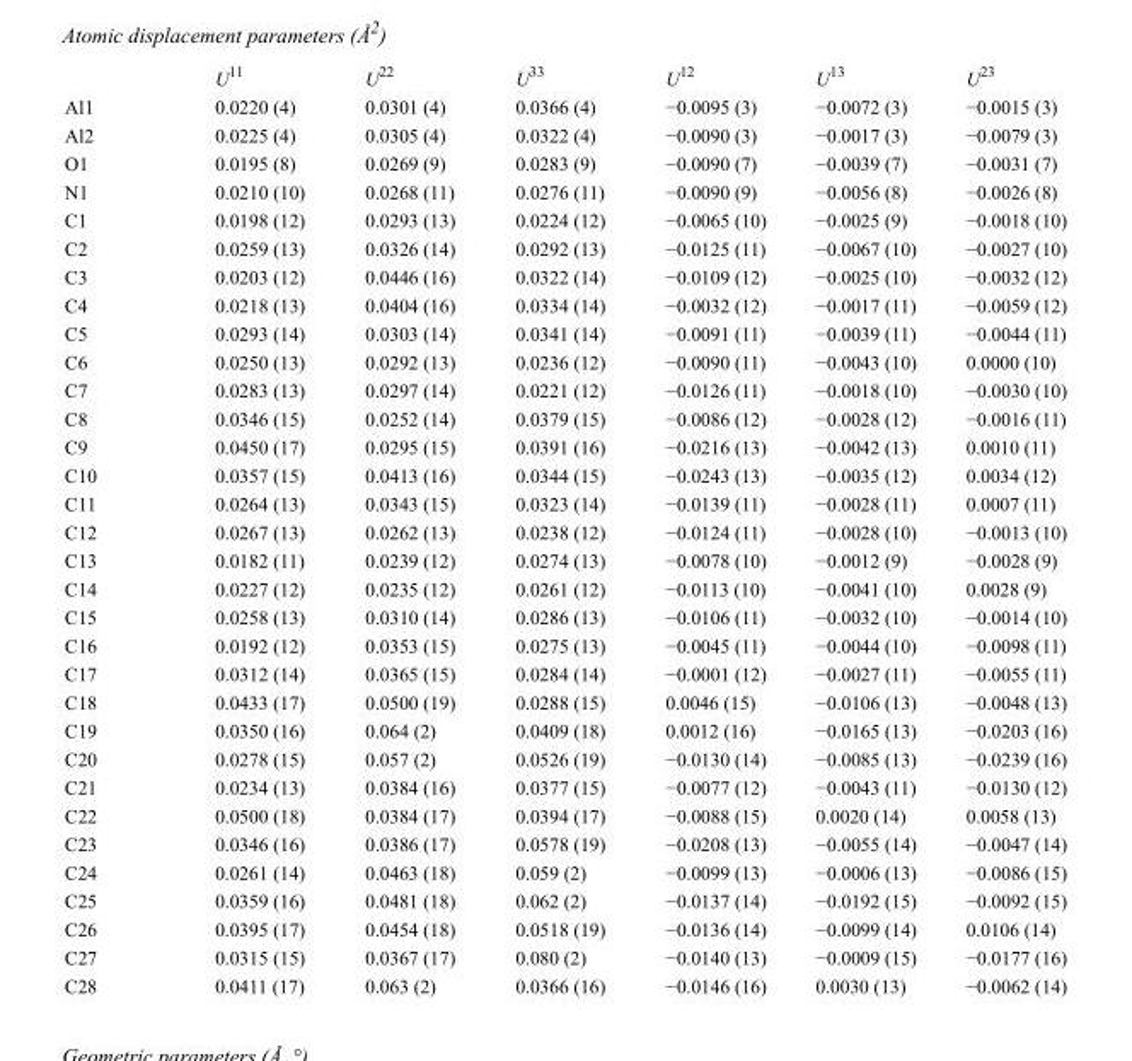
<table><thead><tr><td></td><td>U<sup>11</sup></td><td>U<sup>22</sup></td><td>U<sup>33</sup></td><td>U<sup>12</sup></td><td>U<sup>13</sup></td><td>U<sup>23</sup></td></tr></thead><tbody><tr><td>Al1</td><td>0.0220 (4)</td><td>0.0301 (4)</td><td>0.0366 (4)</td><td>−0.0095 (3)</td><td>−0.0072 (3)</td><td>−0.0015 (3)</td></tr><tr><td>Al2</td><td>0.0225 (4)</td><td>0.0305 (4)</td><td>0.0322 (4)</td><td>−0.0090 (3)</td><td>−0.0017 (3)</td><td>−0.0079 (3)</td></tr><tr><td>O1</td><td>0.0195 (8)</td><td>0.0269 (9)</td><td>0.0283 (9)</td><td>−0.0090 (7)</td><td>−0.0039 (7)</td><td>−0.0031 (7)</td></tr><tr><td>N1</td><td>0.0210 (10)</td><td>0.0268 (11)</td><td>0.0276 (11)</td><td>−0.0090 (9)</td><td>−0.0056 (8)</td><td>−0.0026 (8)</td></tr><tr><td>C1</td><td>0.0198 (12)</td><td>0.0293 (13)</td><td>0.0224 (12)</td><td>−0.0065 (10)</td><td>−0.0025 (9)</td><td>−0.0018 (10)</td></tr><tr><td>C2</td><td>0.0259 (13)</td><td>0.0326 (14)</td><td>0.0292 (13)</td><td>−0.0125 (11)</td><td>−0.0067 (10)</td><td>−0.0027 (10)</td></tr><tr><td>C3</td><td>0.0203 (12)</td><td>0.0446 (16)</td><td>0.0322 (14)</td><td>−0.0109 (12)</td><td>−0.0025 (10)</td><td>−0.0032 (12)</td></tr><tr><td>C4</td><td>0.0218 (13)</td><td>0.0404 (16)</td><td>0.0334 (14)</td><td>−0.0032 (12)</td><td>−0.0017 (11)</td><td>−0.0059 (12)</td></tr><tr><td>C5</td><td>0.0293 (14)</td><td>0.0303 (14)</td><td>0.0341 (14)</td><td>−0.0091 (11)</td><td>−0.0039 (11)</td><td>−0.0044 (11)</td></tr><tr><td>C6</td><td>0.0250 (13)</td><td>0.0292 (13)</td><td>0.0236 (12)</td><td>−0.0090 (11)</td><td>−0.0043 (10)</td><td>0.0000 (10)</td></tr><tr><td>C7</td><td>0.0283 (13)</td><td>0.0297 (14)</td><td>0.0221 (12)</td><td>−0.0126 (11)</td><td>−0.0018 (10)</td><td>−0.0030 (10)</td></tr><tr><td>C8</td><td>0.0346 (15)</td><td>0.0252 (14)</td><td>0.0379 (15)</td><td>−0.0086 (12)</td><td>−0.0028 (12)</td><td>−0.0016 (11)</td></tr><tr><td>C9</td><td>0.0450 (17)</td><td>0.0295 (15)</td><td>0.0391 (16)</td><td>−0.0216 (13)</td><td>−0.0042 (13)</td><td>0.0010 (11)</td></tr><tr><td>C10</td><td>0.0357 (15)</td><td>0.0413 (16)</td><td>0.0344 (15)</td><td>−0.0243 (13)</td><td>−0.0035 (12)</td><td>0.0034 (12)</td></tr><tr><td>C11</td><td>0.0264 (13)</td><td>0.0343 (15)</td><td>0.0323 (14)</td><td>−0.0139 (11)</td><td>−0.0028 (11)</td><td>0.0007 (11)</td></tr><tr><td>C12</td><td>0.0267 (13)</td><td>0.0262 (13)</td><td>0.0238 (12)</td><td>−0.0124 (11)</td><td>−0.0028 (10)</td><td>−0.0013 (10)</td></tr><tr><td>C13</td><td>0.0182 (11)</td><td>0.0239 (12)</td><td>0.0274 (13)</td><td>−0.0078 (10)</td><td>−0.0012 (9)</td><td>−0.0028 (9)</td></tr><tr><td>C14</td><td>0.0227 (12)</td><td>0.0235 (12)</td><td>0.0261 (12)</td><td>−0.0113 (10)</td><td>−0.0041 (10)</td><td>0.0028 (9)</td></tr><tr><td>C15</td><td>0.0258 (13)</td><td>0.0310 (14)</td><td>0.0286 (13)</td><td>−0.0106 (11)</td><td>−0.0032 (10)</td><td>−0.0014 (10)</td></tr><tr><td>C16</td><td>0.0192 (12)</td><td>0.0353 (15)</td><td>0.0275 (13)</td><td>−0.0045 (11)</td><td>−0.0044 (10)</td><td>−0.0098 (11)</td></tr><tr><td>C17</td><td>0.0312 (14)</td><td>0.0365 (15)</td><td>0.0284 (14)</td><td>−0.0001 (12)</td><td>−0.0027 (11)</td><td>−0.0055 (11)</td></tr><tr><td>C18</td><td>0.0433 (17)</td><td>0.0500 (19)</td><td>0.0288 (15)</td><td>0.0046 (15)</td><td>−0.0106 (13)</td><td>−0.0048 (13)</td></tr><tr><td>C19</td><td>0.0350 (16)</td><td>0.064 (2)</td><td>0.0409 (18)</td><td>0.0012 (16)</td><td>−0.0165 (13)</td><td>−0.0203 (16)</td></tr><tr><td>C20</td><td>0.0278 (15)</td><td>0.057 (2)</td><td>0.0526 (19)</td><td>−0.0130 (14)</td><td>−0.0085 (13)</td><td>−0.0239 (16)</td></tr><tr><td>C21</td><td>0.0234 (13)</td><td>0.0384 (16)</td><td>0.0377 (15)</td><td>−0.0077 (12)</td><td>−0.0043 (11)</td><td>−0.0130 (12)</td></tr><tr><td>C22</td><td>0.0500 (18)</td><td>0.0384 (17)</td><td>0.0394 (17)</td><td>−0.0088 (15)</td><td>0.0020 (14)</td><td>0.0058 (13)</td></tr><tr><td>C23</td><td>0.0346 (16)</td><td>0.0386 (17)</td><td>0.0578 (19)</td><td>−0.0208 (13)</td><td>−0.0055 (14)</td><td>−0.0047 (14)</td></tr><tr><td>C24</td><td>0.0261 (14)</td><td>0.0463 (18)</td><td>0.059 (2)</td><td>−0.0099 (13)</td><td>−0.0006 (13)</td><td>−0.0086 (15)</td></tr><tr><td>C25</td><td>0.0359 (16)</td><td>0.0481 (18)</td><td>0.062 (2)</td><td>−0.0137 (14)</td><td>−0.0192 (15)</td><td>−0.0092 (15)</td></tr><tr><td>C26</td><td>0.0395 (17)</td><td>0.0454 (18)</td><td>0.0518 (19)</td><td>−0.0136 (14)</td><td>−0.0099 (14)</td><td>0.0106 (14)</td></tr><tr><td>C27</td><td>0.0315 (15)</td><td>0.0367 (17)</td><td>0.080 (2)</td><td>−0.0140 (13)</td><td>−0.0009 (15)</td><td>−0.0177 (16)</td></tr><tr><td>C28</td><td>0.0411 (17)</td><td>0.063 (2)</td><td>0.0366 (16)</td><td>−0.0146 (16)</td><td>0.0030 (13)</td><td>−0.0062 (14)</td></tr></tbody></table>